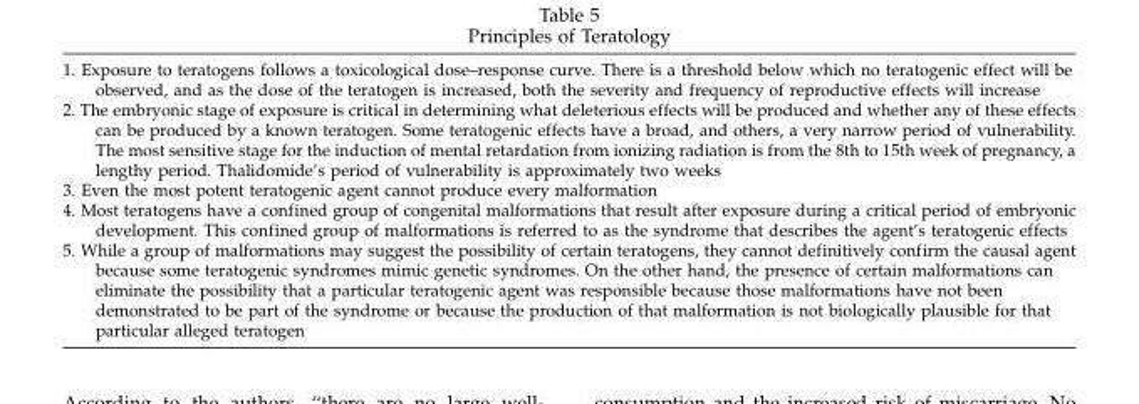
<table><tbody><tr><td>1.</td><td>Exposure to teratogens follows a toxicological dose–response curve. There is a threshold below which no teratogenic effect will be observed, and as the dose of the teratogen is increased, both the severity and frequency of reproductive effects will increase</td></tr><tr><td>2.</td><td>The embryonic stage of exposure is critical in determining what deleterious effects will be produced and whether any of these effects can be produced by a known teratogen. Some teratogenic effects have a broad, and others, a very narrow period of vulnerability. The most sensitive stage for the induction of mental retardation from ionizing radiation is from the 8th to 15th week of pregnancy, a lengthy period. Thalidomide’s period of vulnerability is approximately two weeks</td></tr><tr><td>3.</td><td>Even the most potent teratogenic agent cannot produce every malformation</td></tr><tr><td>4.</td><td>Most teratogens have a confined group of congenital malformations that result after exposure during a critical period of embryonic development. This confined group of malformations is referred to as the syndrome that describes the agent’s teratogenic effects</td></tr><tr><td>5.</td><td>While a group of malformations may suggest the possibility of certain teratogens, they cannot definitively confirm the causal agent because some teratogenic syndromes mimic genetic syndromes. On the other hand, the presence of certain malformations can eliminate the possibility that a particular teratogenic agent was responsible because those malformations have not been demonstrated to be part of the syndrome or because the production of that malformation is not biologically plausible for that particular alleged teratogen</td></tr></tbody></table>